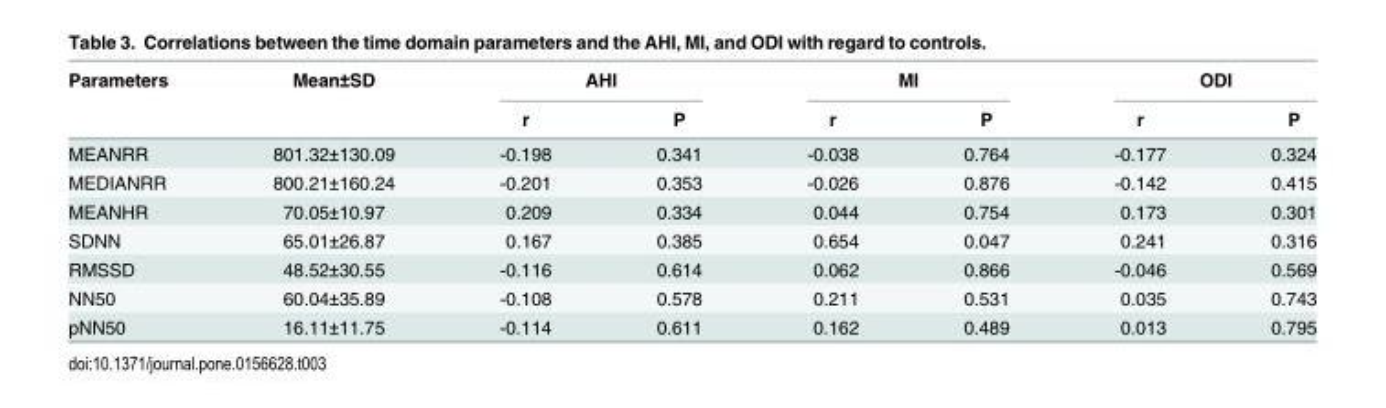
<table><thead><tr><td rowspan="2">Parameters</td><td rowspan="2">Mean±SD</td><td colspan="2">AHI</td><td colspan="2">MI</td><td colspan="2">ODI</td></tr><tr><td>r</td><td>P</td><td>r</td><td>P</td><td>r</td><td>P</td></tr></thead><tbody><tr><td>MEANRR</td><td>801.32±130.09</td><td>-0.198</td><td>0.341</td><td>-0.038</td><td>0.764</td><td>-0.177</td><td>0.324</td></tr><tr><td>MEDIANRR</td><td>800.21±160.24</td><td>-0.201</td><td>0.353</td><td>-0.026</td><td>0.876</td><td>-0.142</td><td>0.415</td></tr><tr><td>MEANHR</td><td>70.05±10.97</td><td>0.209</td><td>0.334</td><td>0.044</td><td>0.754</td><td>0.173</td><td>0.301</td></tr><tr><td>SDNN</td><td>65.01±26.87</td><td>0.167</td><td>0.385</td><td>0.654</td><td>0.047</td><td>0.241</td><td>0.316</td></tr><tr><td>RMSSD</td><td>48.52±30.55</td><td>-0.116</td><td>0.614</td><td>0.062</td><td>0.866</td><td>-0.046</td><td>0.569</td></tr><tr><td>NN50</td><td>60.04±35.89</td><td>-0.108</td><td>0.578</td><td>0.211</td><td>0.531</td><td>0.035</td><td>0.743</td></tr><tr><td>pNN50</td><td>16.11±11.75</td><td>-0.114</td><td>0.611</td><td>0.162</td><td>0.489</td><td>0.013</td><td>0.795</td></tr></tbody></table>